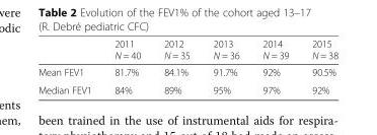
<table><thead><tr><td></td><td>2011 N = 40</td><td>2012 N = 35</td><td>2013 N = 36</td><td>2014 N = 39</td><td>2015 N = 38</td></tr></thead><tbody><tr><td>Mean FEV1</td><td>81.7%</td><td>84.1%</td><td>91.7%</td><td>92%</td><td>90.5%</td></tr><tr><td>Median FEV1</td><td>84%</td><td>89%</td><td>95%</td><td>97%</td><td>92%</td></tr></tbody></table>